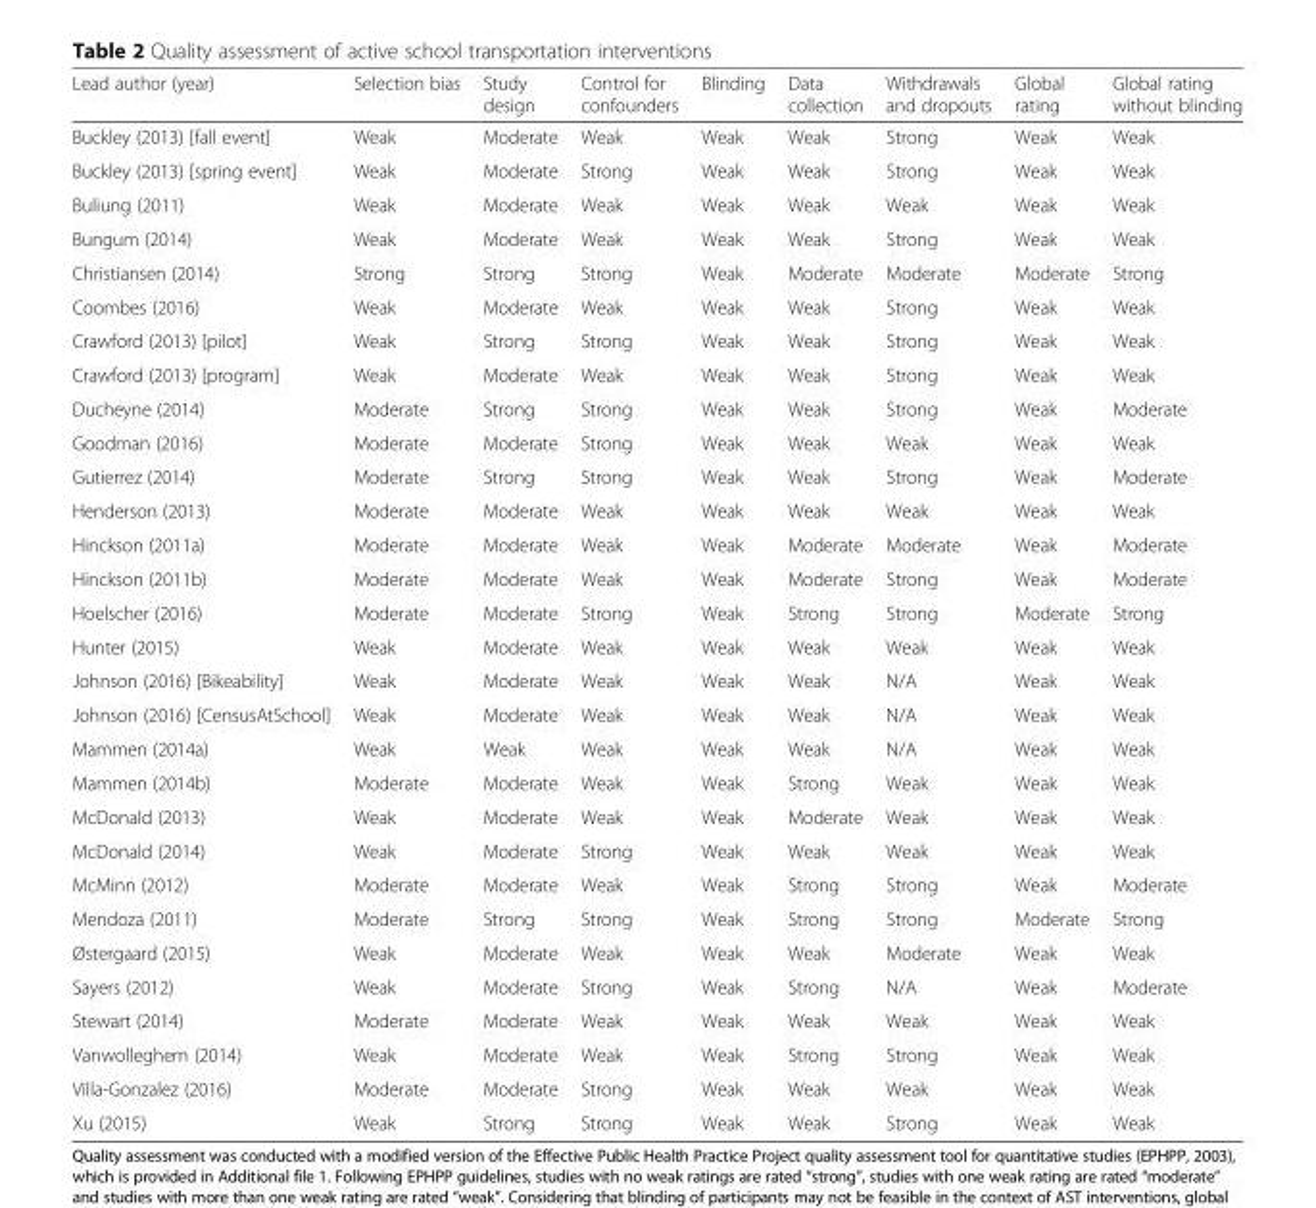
<table><thead><tr><td>Lead author (year)</td><td>Selection bias</td><td>Study design</td><td>Control for confounders</td><td>Blinding</td><td>Data collection</td><td>Withdrawals and dropouts</td><td>Global rating</td><td>Global rating without blinding</td></tr></thead><tbody><tr><td>Buckley (2013) [fall event]</td><td>Weak</td><td>Moderate</td><td>Weak</td><td>Weak</td><td>Weak</td><td>Strong</td><td>Weak</td><td>Weak</td></tr><tr><td>Buckley (2013) [spring event]</td><td>Weak</td><td>Moderate</td><td>Strong</td><td>Weak</td><td>Weak</td><td>Strong</td><td>Weak</td><td>Weak</td></tr><tr><td>Buliung (2011)</td><td>Weak</td><td>Moderate</td><td>Weak</td><td>Weak</td><td>Weak</td><td>Weak</td><td>Weak</td><td>Weak</td></tr><tr><td>Bungum (2014)</td><td>Weak</td><td>Moderate</td><td>Weak</td><td>Weak</td><td>Weak</td><td>Strong</td><td>Weak</td><td>Weak</td></tr><tr><td>Christiansen (2014)</td><td>Strong</td><td>Strong</td><td>Strong</td><td>Weak</td><td>Moderate</td><td>Moderate</td><td>Moderate</td><td>Strong</td></tr><tr><td>Coombes (2016)</td><td>Weak</td><td>Moderate</td><td>Weak</td><td>Weak</td><td>Weak</td><td>Strong</td><td>Weak</td><td>Weak</td></tr><tr><td>Crawford (2013) [pilot]</td><td>Weak</td><td>Strong</td><td>Strong</td><td>Weak</td><td>Weak</td><td>Strong</td><td>Weak</td><td>Weak</td></tr><tr><td>Crawford (2013) [program]</td><td>Weak</td><td>Moderate</td><td>Weak</td><td>Weak</td><td>Weak</td><td>Strong</td><td>Weak</td><td>Weak</td></tr><tr><td>Ducheyne (2014)</td><td>Moderate</td><td>Strong</td><td>Strong</td><td>Weak</td><td>Weak</td><td>Strong</td><td>Weak</td><td>Moderate</td></tr><tr><td>Goodman (2016)</td><td>Moderate</td><td>Moderate</td><td>Strong</td><td>Weak</td><td>Weak</td><td>Weak</td><td>Weak</td><td>Weak</td></tr><tr><td>Gutierrez (2014)</td><td>Moderate</td><td>Strong</td><td>Strong</td><td>Weak</td><td>Weak</td><td>Strong</td><td>Weak</td><td>Moderate</td></tr><tr><td>Henderson (2013)</td><td>Moderate</td><td>Moderate</td><td>Weak</td><td>Weak</td><td>Weak</td><td>Weak</td><td>Weak</td><td>Weak</td></tr><tr><td>Hinckson (2011a)</td><td>Moderate</td><td>Moderate</td><td>Weak</td><td>Weak</td><td>Moderate</td><td>Moderate</td><td>Weak</td><td>Moderate</td></tr><tr><td>Hinckson (2011b)</td><td>Moderate</td><td>Moderate</td><td>Weak</td><td>Weak</td><td>Moderate</td><td>Strong</td><td>Weak</td><td>Moderate</td></tr><tr><td>Hoelscher (2016)</td><td>Moderate</td><td>Moderate</td><td>Strong</td><td>Weak</td><td>Strong</td><td>Strong</td><td>Moderate</td><td>Strong</td></tr><tr><td>Hunter (2015)</td><td>Weak</td><td>Moderate</td><td>Weak</td><td>Weak</td><td>Weak</td><td>Weak</td><td>Weak</td><td>Weak</td></tr><tr><td>Johnson (2016) [Bikeability]</td><td>Weak</td><td>Moderate</td><td>Weak</td><td>Weak</td><td>Weak</td><td>N/A</td><td>Weak</td><td>Weak</td></tr><tr><td>Johnson (2016) [CensusAtSchool]</td><td>Weak</td><td>Moderate</td><td>Weak</td><td>Weak</td><td>Weak</td><td>N/A</td><td>Weak</td><td>Weak</td></tr><tr><td>Mammen (2014a)</td><td>Weak</td><td>Weak</td><td>Weak</td><td>Weak</td><td>Weak</td><td>N/A</td><td>Weak</td><td>Weak</td></tr><tr><td>Mammen (2014b)</td><td>Moderate</td><td>Moderate</td><td>Weak</td><td>Weak</td><td>Strong</td><td>Weak</td><td>Weak</td><td>Weak</td></tr><tr><td>McDonald (2013)</td><td>Weak</td><td>Moderate</td><td>Weak</td><td>Weak</td><td>Moderate</td><td>Weak</td><td>Weak</td><td>Weak</td></tr><tr><td>McDonald (2014)</td><td>Weak</td><td>Moderate</td><td>Strong</td><td>Weak</td><td>Weak</td><td>Weak</td><td>Weak</td><td>Weak</td></tr><tr><td>McMinn (2012)</td><td>Moderate</td><td>Moderate</td><td>Weak</td><td>Weak</td><td>Strong</td><td>Strong</td><td>Weak</td><td>Moderate</td></tr><tr><td>Mendoza (2011)</td><td>Moderate</td><td>Strong</td><td>Strong</td><td>Weak</td><td>Strong</td><td>Strong</td><td>Moderate</td><td>Strong</td></tr><tr><td>Østergaard (2015)</td><td>Weak</td><td>Moderate</td><td>Weak</td><td>Weak</td><td>Weak</td><td>Moderate</td><td>Weak</td><td>Weak</td></tr><tr><td>Sayers (2012)</td><td>Weak</td><td>Moderate</td><td>Strong</td><td>Weak</td><td>Strong</td><td>N/A</td><td>Weak</td><td>Moderate</td></tr><tr><td>Stewart (2014)</td><td>Moderate</td><td>Moderate</td><td>Weak</td><td>Weak</td><td>Weak</td><td>Weak</td><td>Weak</td><td>Weak</td></tr><tr><td>Vanwolleghem (2014)</td><td>Weak</td><td>Moderate</td><td>Weak</td><td>Weak</td><td>Strong</td><td>Strong</td><td>Weak</td><td>Weak</td></tr><tr><td>Villa-Gonzalez (2016)</td><td>Moderate</td><td>Moderate</td><td>Strong</td><td>Weak</td><td>Weak</td><td>Weak</td><td>Weak</td><td>Weak</td></tr><tr><td>Xu (2015)</td><td>Weak</td><td>Strong</td><td>Strong</td><td>Weak</td><td>Weak</td><td>Strong</td><td>Weak</td><td>Weak</td></tr></tbody></table>